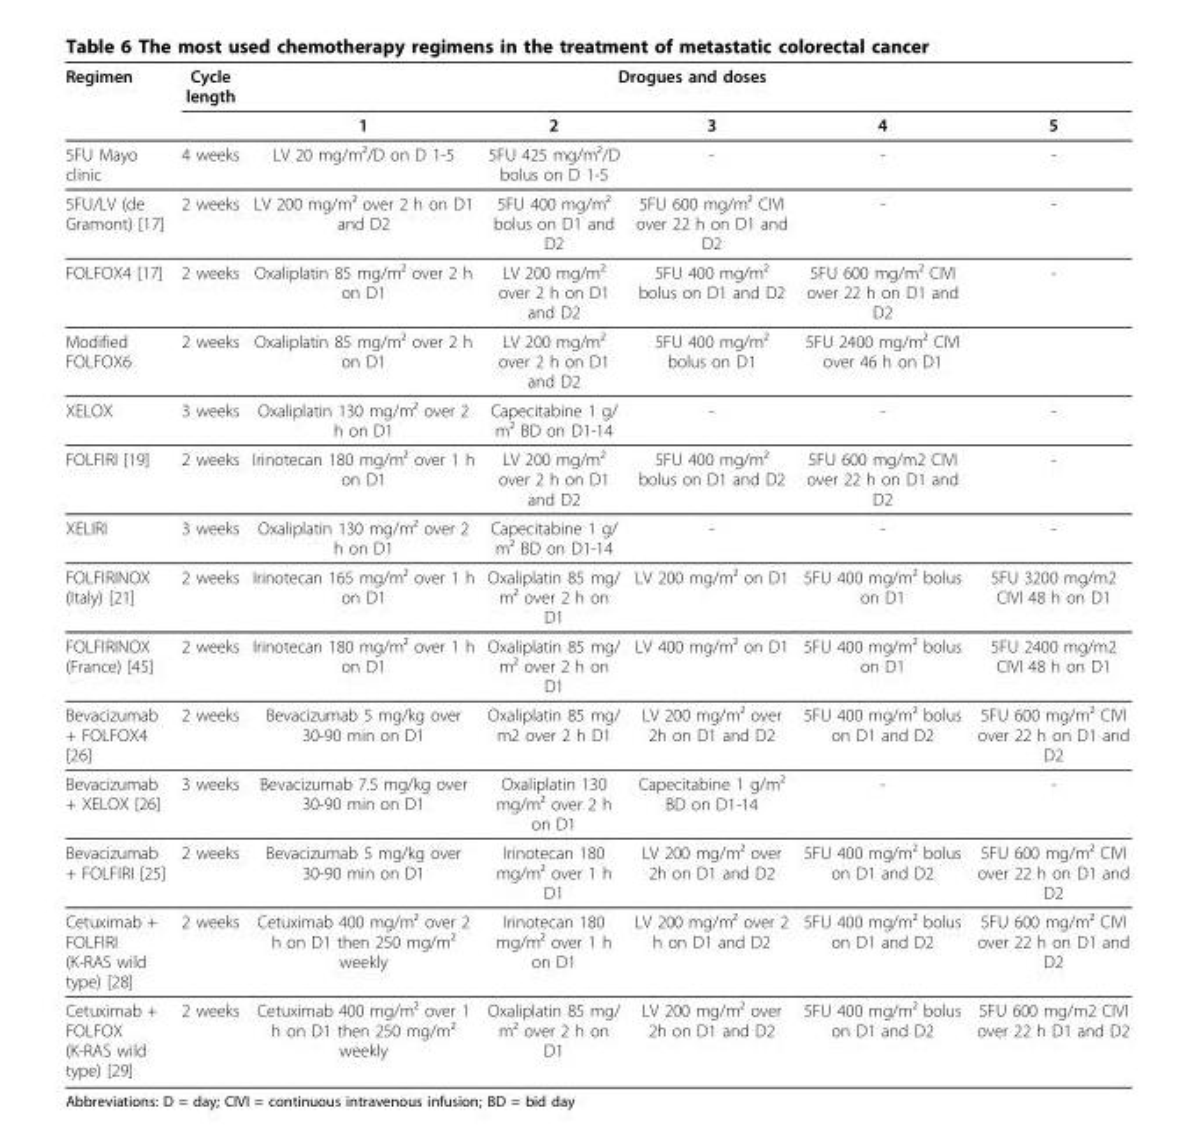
<table><thead><tr><td rowspan="2">Regimen</td><td rowspan="2">Cycle length</td><td colspan="5">Drogues and doses</td></tr><tr><td>1</td><td>2</td><td>3</td><td>4</td><td>5</td></tr></thead><tbody><tr><td>5FU Mayo clinic</td><td>4 weeks</td><td>LV 20 mg/m²/D on D 1-5</td><td>5FU 425 mg/m²/D bolus on D 1-5</td><td>-</td><td>-</td><td>-</td></tr><tr><td>5FU/LV (de Gramont) [17]</td><td>2 weeks</td><td>LV 200 mg/m² over 2 h on D1 and D2</td><td>5FU 400 mg/m² bolus on D1 and D2</td><td>5FU 600 mg/m² CIVI over 22 h on D1 and D2</td><td>-</td><td>-</td></tr><tr><td>FOLFOX4 [17]</td><td>2 weeks</td><td>Oxaliplatin 85 mg/m² over 2 h on D1</td><td>LV 200 mg/m² over 2 h on D1 and D2</td><td>5FU 400 mg/m² bolus on D1 and D2</td><td>5FU 600 mg/m² CIVI over 22 h on D1 and D2</td><td>-</td></tr><tr><td>Modified FOLFOX6</td><td>2 weeks</td><td>Oxaliplatin 85 mg/m² over 2 h on D1</td><td>LV 200 mg/m² over 2 h on D1 and D2</td><td>5FU 400 mg/m² bolus on D1</td><td>5FU 2400 mg/m² CIVI over 46 h on D1</td><td></td></tr><tr><td>XELOX</td><td>3 weeks</td><td>Oxaliplatin 130 mg/m² over 2 h on D1</td><td>Capecitabine 1 g/ m² BD on D1-14</td><td>-</td><td>-</td><td>-</td></tr><tr><td>FOLFIRI [19]</td><td>2 weeks</td><td>Irinotecan 180 mg/m² over 1 h on D1</td><td>LV 200 mg/m² over 2 h on D1 and D2</td><td>5FU 400 mg/m² bolus on D1 and D2</td><td>5FU 600 mg/m2 CIVI over 22 h on D1 and D2</td><td>-</td></tr><tr><td>XELIRI</td><td>3 weeks</td><td>Oxaliplatin 130 mg/m² over 2 h on D1</td><td>Capecitabine 1 g/ m² BD on D1-14</td><td>-</td><td>-</td><td>-</td></tr><tr><td>FOLFIRINOX (Italy) [21]</td><td>2 weeks</td><td>Irinotecan 165 mg/m² over 1 h on D1</td><td>Oxaliplatin 85 mg/ m² over 2 h on D1</td><td>LV 200 mg/m² on D1</td><td>5FU 400 mg/m² bolus on D1</td><td>5FU 3200 mg/m2 CIVI 48 h on D1</td></tr><tr><td>FOLFIRINOX (France) [45]</td><td>2 weeks</td><td>Irinotecan 180 mg/m² over 1 h on D1</td><td>Oxaliplatin 85 mg/ m² over 2 h on D1</td><td>LV 400 mg/m² on D1</td><td>5FU 400 mg/m² bolus on D1</td><td>5FU 2400 mg/m2 CIVI 48 h on D1</td></tr><tr><td>Bevacizumab + FOLFOX4 [26]</td><td>2 weeks</td><td>Bevacizumab 5 mg/kg over 30-90 min on D1</td><td>Oxaliplatin 85 mg/ m2 over 2 h D1</td><td>LV 200 mg/m² over 2h on D1 and D2</td><td>5FU 400 mg/m² bolus on D1 and D2</td><td>5FU 600 mg/m² CIVI over 22 h on D1 and D2</td></tr><tr><td>Bevacizumab + XELOX [26]</td><td>3 weeks</td><td>Bevacizumab 7.5 mg/kg over 30-90 min on D1</td><td>Oxaliplatin 130 mg/m² over 2 h on D1</td><td>Capecitabine 1 g/m² BD on D1-14</td><td>-</td><td>-</td></tr><tr><td>Bevacizumab + FOLFIRI [25]</td><td>2 weeks</td><td>Bevacizumab 5 mg/kg over 30-90 min on D1</td><td>Irinotecan 180 mg/m² over 1 h D1</td><td>LV 200 mg/m² over 2h on D1 and D2</td><td>5FU 400 mg/m² bolus on D1 and D2</td><td>5FU 600 mg/m² CIVI over 22 h on D1 and D2</td></tr><tr><td>Cetuximab + FOLFIRI (K-RAS wild type) [28]</td><td>2 weeks</td><td>Cetuximab 400 mg/m² over 2 h on D1 then 250 mg/m² weekly</td><td>Irinotecan 180 mg/m² over 1 h on D1</td><td>LV 200 mg/m² over 2 h on D1 and D2</td><td>5FU 400 mg/m² bolus on D1 and D2</td><td>5FU 600 mg/m² CIVI over 22 h on D1 and D2</td></tr><tr><td>Cetuximab + FOLFOX (K-RAS wild type) [29]</td><td>2 weeks</td><td>Cetuximab 400 mg/m² over 1 h on D1 then 250 mg/m² weekly</td><td>Oxaliplatin 85 mg/ m² over 2 h on D1</td><td>LV 200 mg/m² over 2h on D1 and D2</td><td>5FU 400 mg/m² bolus on D1 and D2</td><td>5FU 600 mg/m2 CIVI over 22 h D1 and D2</td></tr></tbody></table>